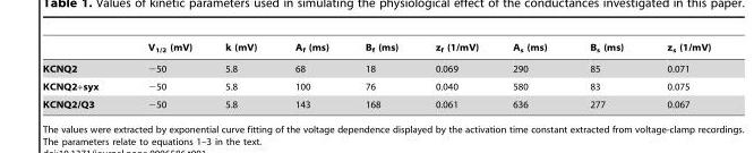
<table><thead><tr><td></td><td>V<sub>1/2</sub> (mV)</td><td>k (mV)</td><td>A<sub>f</sub> (ms)</td><td>B<sub>f</sub> (ms)</td><td>z<sub>f</sub> (1/mV)</td><td>A<sub>s</sub> (ms)</td><td>B<sub>s</sub> (ms)</td><td>z<sub>s</sub> (1/mV)</td></tr></thead><tbody><tr><td>KCNQ2</td><td>−50</td><td>5.8</td><td>68</td><td>18</td><td>0.069</td><td>290</td><td>85</td><td>0.071</td></tr><tr><td>KCNQ2+syx</td><td>−50</td><td>5.8</td><td>100</td><td>76</td><td>0.040</td><td>580</td><td>83</td><td>0.075</td></tr><tr><td>KCNQ2/Q3</td><td>−50</td><td>5.8</td><td>143</td><td>168</td><td>0.061</td><td>636</td><td>277</td><td>0.067</td></tr></tbody></table>